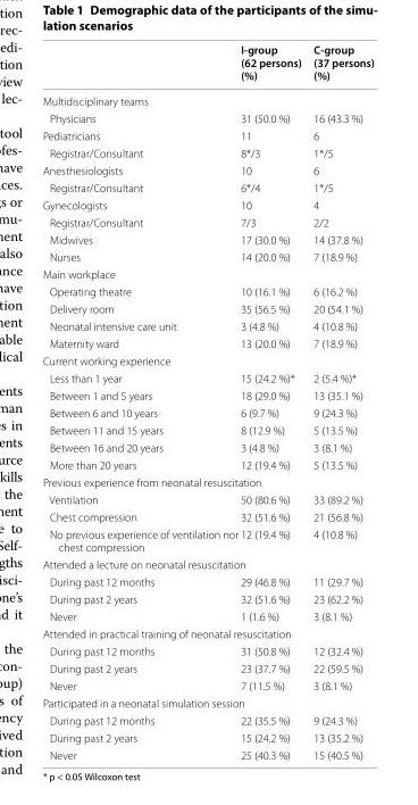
<table><thead><tr><td></td><td>I-group (62 persons) (%)</td><td>C-group (37 persons) (%)</td></tr></thead><tbody><tr><td colspan="3">Multidisciplinary teams</td></tr><tr><td>Physicians</td><td>31 (50.0 %)</td><td>16 (43.3 %)</td></tr><tr><td>Pediatricians</td><td>11</td><td>6</td></tr><tr><td>Registrar/Consultant</td><td>8*/3</td><td>1*/5</td></tr><tr><td>Anesthesiologists</td><td>10</td><td>6</td></tr><tr><td>Registrar/Consultant</td><td>6*/4</td><td>1*/5</td></tr><tr><td>Gynecologists</td><td>10</td><td>4</td></tr><tr><td>Registrar/Consultant</td><td>7/3</td><td>2/2</td></tr><tr><td>Midwives</td><td>17 (30.0 %)</td><td>14 (37.8 %)</td></tr><tr><td>Nurses</td><td>14 (20.0 %)</td><td>7 (18.9 %)</td></tr><tr><td colspan="3">Main workplace</td></tr><tr><td>Operating theatre</td><td>10 (16.1 %)</td><td>6 (16.2 %)</td></tr><tr><td>Delivery room</td><td>35 (56.5 %)</td><td>20 (54.1 %)</td></tr><tr><td>Neonatal intensive care unit</td><td>3 (4.8 %)</td><td>4 (10.8 %)</td></tr><tr><td>Maternity ward</td><td>13 (20.0 %)</td><td>7 (18.9 %)</td></tr><tr><td colspan="3">Current working experience</td></tr><tr><td>Less than 1 year</td><td>15 (24.2 %)*</td><td>2 (5.4 %)*</td></tr><tr><td>Between 1 and 5 years</td><td>18 (29.0 %)</td><td>13 (35.1 %)</td></tr><tr><td>Between 6 and 10 years</td><td>6 (9.7 %)</td><td>9 (24.3 %)</td></tr><tr><td>Between 11 and 15 years</td><td>8 (12.9 %)</td><td>5 (13.5 %)</td></tr><tr><td>Between 16 and 20 years</td><td>3 (4.8 %)</td><td>3 (8.1 %)</td></tr><tr><td>More than 20 years</td><td>12 (19.4 %)</td><td>5 (13.5 %)</td></tr><tr><td colspan="3">Previous experience from neonatal resuscitation</td></tr><tr><td>Ventilation</td><td>50 (80.6 %)</td><td>33 (89.2 %)</td></tr><tr><td>Chest compression</td><td>32 (51.6 %)</td><td>21 (56.8 %)</td></tr><tr><td>No previous experience of ventilation nor chest compression</td><td>12 (19.4 %)</td><td>4 (10.8 %)</td></tr><tr><td colspan="3">Attended a lecture on neonatal resuscitation</td></tr><tr><td>During past 12 months</td><td>29 (46.8 %)</td><td>11 (29.7 %)</td></tr><tr><td>During past 2 years</td><td>32 (51.6 %)</td><td>23 (62.2 %)</td></tr><tr><td>Never</td><td>1 (1.6 %)</td><td>3 (8.1 %)</td></tr><tr><td colspan="3">Attended in practical training of neonatal resuscitation</td></tr><tr><td>During past 12 months</td><td>31 (50.8 %)</td><td>12 (32.4 %)</td></tr><tr><td>During past 2 years</td><td>23 (37.7 %)</td><td>22 (59.5 %)</td></tr><tr><td>Never</td><td>7 (11.5 %)</td><td>3 (8.1 %)</td></tr><tr><td colspan="3">Participated in a neonatal simulation session</td></tr><tr><td>During past 12 months</td><td>22 (35.5 %)</td><td>9 (24.3 %)</td></tr><tr><td>During past 2 years</td><td>15 (24.2 %)</td><td>13 (35.2 %)</td></tr><tr><td>Never</td><td>25 (40.3 %)</td><td>15 (40.5 %)</td></tr></tbody></table>